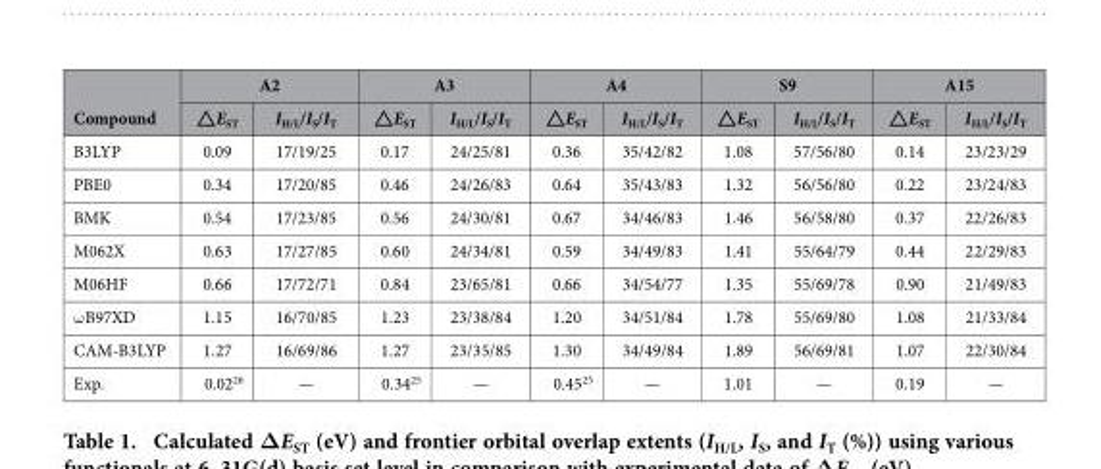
<table><tbody><tr><td rowspan="2">Compound</td><td colspan="2">A2</td><td colspan="2">A3</td><td colspan="2">A4</td><td colspan="2">S9</td><td colspan="2">A15</td></tr><tr><td>△E<sub>ST</sub></td><td>I<sub>H/L</sub>/I<sub>S</sub>/I<sub>T</sub></td><td>△E<sub>ST</sub></td><td>I<sub>H/L</sub>/I<sub>S</sub>/I<sub>T</sub></td><td>△E<sub>ST</sub></td><td>I<sub>H/L</sub>/I<sub>S</sub>/I<sub>T</sub></td><td>△E<sub>ST</sub></td><td>I<sub>H/L</sub>/I<sub>S</sub>/I<sub>T</sub></td><td>△E<sub>ST</sub></td><td>I<sub>H/L</sub>/I<sub>S</sub>/I<sub>T</sub></td></tr><tr><td>B3LYP</td><td>0.09</td><td>17/19/25</td><td>0.17</td><td>24/25/81</td><td>0.36</td><td>35/42/82</td><td>1.08</td><td>57/56/80</td><td>0.14</td><td>23/23/29</td></tr><tr><td>PBE0</td><td>0.34</td><td>17/20/85</td><td>0.46</td><td>24/26/83</td><td>0.64</td><td>35/43/83</td><td>1.32</td><td>56/56/80</td><td>0.22</td><td>23/24/83</td></tr><tr><td>BMK</td><td>0.54</td><td>17/23/85</td><td>0.56</td><td>24/30/81</td><td>0.67</td><td>34/46/83</td><td>1.46</td><td>56/58/80</td><td>0.37</td><td>22/26/83</td></tr><tr><td>M062X</td><td>0.63</td><td>17/27/85</td><td>0.60</td><td>24/34/81</td><td>0.59</td><td>34/49/83</td><td>1.41</td><td>55/64/79</td><td>0.44</td><td>22/29/83</td></tr><tr><td>M06HF</td><td>0.66</td><td>17/72/71</td><td>0.84</td><td>23/65/81</td><td>0.66</td><td>34/54/77</td><td>1.35</td><td>55/69/78</td><td>0.90</td><td>21/49/83</td></tr><tr><td>ω B97XD</td><td>1.15</td><td>16/70/85</td><td>1.23</td><td>23/38/84</td><td>1.20</td><td>34/51/84</td><td>1.78</td><td>55/69/80</td><td>1.08</td><td>21/33/84</td></tr><tr><td>CAM-B3LYP</td><td>1.27</td><td>16/69/86</td><td>1.27</td><td>23/35/85</td><td>1.30</td><td>34/49/84</td><td>1.89</td><td>56/69/81</td><td>1.07</td><td>22/30/84</td></tr><tr><td>Exp.</td><td>0.02<sup>26</sup></td><td>—</td><td>0.34<sup>25</sup></td><td>—</td><td>0.45<sup>25</sup></td><td>—</td><td>1.01</td><td>—</td><td>0.19</td><td>—</td></tr></tbody></table>